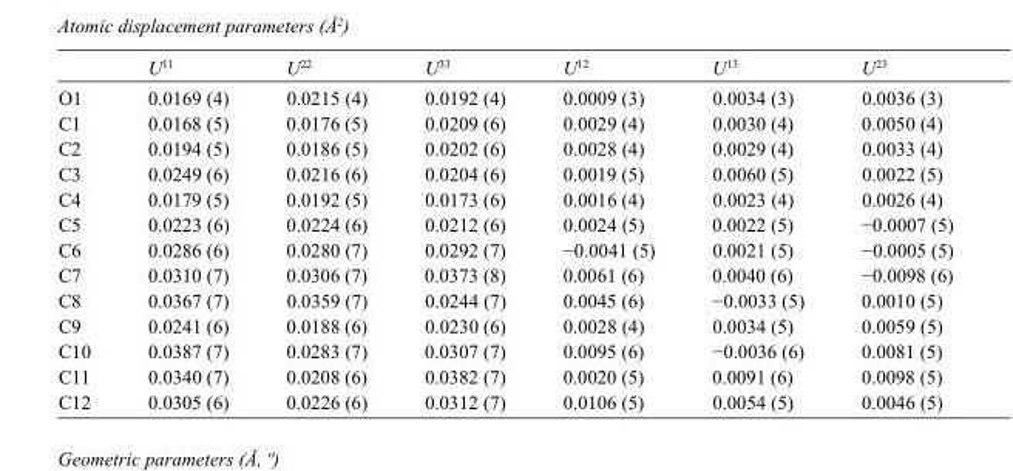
<table><thead><tr><td></td><td>U<sup>11</sup></td><td>U<sup>22</sup></td><td>U<sup>33</sup></td><td>U<sup>12</sup></td><td>U<sup>13</sup></td><td>U<sup>23</sup></td></tr></thead><tbody><tr><td>O1</td><td>0.0169 (4)</td><td>0.0215 (4)</td><td>0.0192 (4)</td><td>0.0009 (3)</td><td>0.0034 (3)</td><td>0.0036 (3)</td></tr><tr><td>C1</td><td>0.0168 (5)</td><td>0.0176 (5)</td><td>0.0209 (6)</td><td>0.0029 (4)</td><td>0.0030 (4)</td><td>0.0050 (4)</td></tr><tr><td>C2</td><td>0.0194 (5)</td><td>0.0186 (5)</td><td>0.0202 (6)</td><td>0.0028 (4)</td><td>0.0029 (4)</td><td>0.0033 (4)</td></tr><tr><td>C3</td><td>0.0249 (6)</td><td>0.0216 (6)</td><td>0.0204 (6)</td><td>0.0019 (5)</td><td>0.0060 (5)</td><td>0.0022 (5)</td></tr><tr><td>C4</td><td>0.0179 (5)</td><td>0.0192 (5)</td><td>0.0173 (6)</td><td>0.0016 (4)</td><td>0.0023 (4)</td><td>0.0026 (4)</td></tr><tr><td>C5</td><td>0.0223 (6)</td><td>0.0224 (6)</td><td>0.0212 (6)</td><td>0.0024 (5)</td><td>0.0022 (5)</td><td>−0.0007 (5)</td></tr><tr><td>C6</td><td>0.0286 (6)</td><td>0.0280 (7)</td><td>0.0292 (7)</td><td>−0.0041 (5)</td><td>0.0021 (5)</td><td>−0.0005 (5)</td></tr><tr><td>C7</td><td>0.0310 (7)</td><td>0.0306 (7)</td><td>0.0373 (8)</td><td>0.0061 (6)</td><td>0.0040 (6)</td><td>−0.0098 (6)</td></tr><tr><td>C8</td><td>0.0367 (7)</td><td>0.0359 (7)</td><td>0.0244 (7)</td><td>0.0045 (6)</td><td>−0.0033 (5)</td><td>0.0010 (5)</td></tr><tr><td>C9</td><td>0.0241 (6)</td><td>0.0188 (6)</td><td>0.0230 (6)</td><td>0.0028 (4)</td><td>0.0034 (5)</td><td>0.0059 (5)</td></tr><tr><td>C10</td><td>0.0387 (7)</td><td>0.0283 (7)</td><td>0.0307 (7)</td><td>0.0095 (6)</td><td>−0.0036 (6)</td><td>0.0081 (5)</td></tr><tr><td>C11</td><td>0.0340 (7)</td><td>0.0208 (6)</td><td>0.0382 (7)</td><td>0.0020 (5)</td><td>0.0091 (6)</td><td>0.0098 (5)</td></tr><tr><td>C12</td><td>0.0305 (6)</td><td>0.0226 (6)</td><td>0.0312 (7)</td><td>0.0106 (5)</td><td>0.0054 (5)</td><td>0.0046 (5)</td></tr></tbody></table>